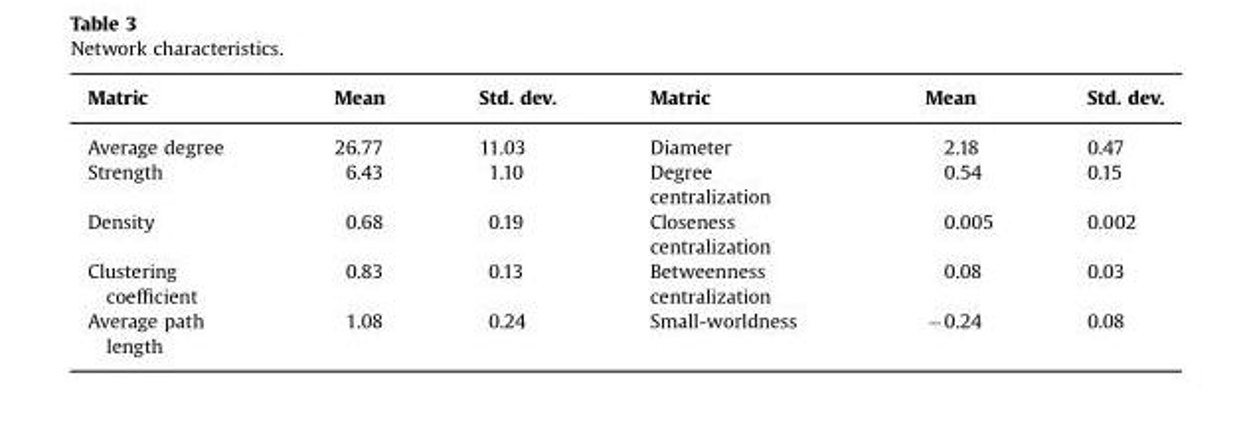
<table><thead><tr><td>Matric</td><td>Mean</td><td>Std. dev.</td><td>Matric</td><td>Mean</td><td>Std. dev.</td></tr></thead><tbody><tr><td>Average degree</td><td>26.77</td><td>11.03</td><td>Diameter</td><td>2.18</td><td>0.47</td></tr><tr><td>Strength</td><td>6.43</td><td>1.10</td><td>Degree centralization</td><td>0.54</td><td>0.15</td></tr><tr><td>Density</td><td>0.68</td><td>0.19</td><td>Closeness centralization</td><td>0.005</td><td>0.002</td></tr><tr><td>Clustering coefficient</td><td>0.83</td><td>0.13</td><td>Betweenness centralization</td><td>0.08</td><td>0.03</td></tr><tr><td>Average path length</td><td>1.08</td><td>0.24</td><td>Small-worldness</td><td>−0.24</td><td>0.08</td></tr></tbody></table>